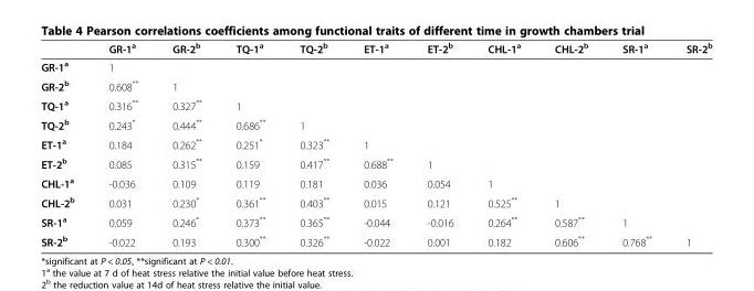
<table><thead><tr><td></td><td>GR-1<sup>a</sup></td><td>GR-2<sup>b</sup></td><td>TQ-1<sup>a</sup></td><td>TQ-2<sup>b</sup></td><td>ET-1<sup>a</sup></td><td>ET-2<sup>b</sup></td><td>CHL-1<sup>a</sup></td><td>CHL-2<sup>b</sup></td><td>SR-1<sup>a</sup></td><td>SR-2<sup>b</sup></td></tr></thead><tbody><tr><td>GR-1<sup>a</sup></td><td>1</td><td></td><td></td><td></td><td></td><td></td><td></td><td></td><td></td><td></td></tr><tr><td>GR-2<sup>b</sup></td><td>0.608**</td><td>1</td><td></td><td></td><td></td><td></td><td></td><td></td><td></td><td></td></tr><tr><td>TQ-1<sup>a</sup></td><td>0.316**</td><td>0.327**</td><td>1</td><td></td><td></td><td></td><td></td><td></td><td></td><td></td></tr><tr><td>TQ-2<sup>b</sup></td><td>0.243*</td><td>0.444**</td><td>0.686**</td><td>1</td><td></td><td></td><td></td><td></td><td></td><td></td></tr><tr><td>ET-1<sup>a</sup></td><td>0.184</td><td>0.262**</td><td>0.251*</td><td>0.323**</td><td>1</td><td></td><td></td><td></td><td></td><td></td></tr><tr><td>ET-2<sup>b</sup></td><td>0.085</td><td>0.315**</td><td>0.159</td><td>0.417**</td><td>0.688**</td><td>1</td><td></td><td></td><td></td><td></td></tr><tr><td>CHL-1<sup>a</sup></td><td>-0.036</td><td>0.109</td><td>0.119</td><td>0.181</td><td>0.036</td><td>0.054</td><td>1</td><td></td><td></td><td></td></tr><tr><td>CHL-2<sup>b</sup></td><td>0.031</td><td>0.230*</td><td>0.361**</td><td>0.403**</td><td>0.015</td><td>0.121</td><td>0.525**</td><td>1</td><td></td><td></td></tr><tr><td>SR-1<sup>a</sup></td><td>0.059</td><td>0.246*</td><td>0.373**</td><td>0.365**</td><td>-0.044</td><td>-0.016</td><td>0.264**</td><td>0.587**</td><td>1</td><td></td></tr><tr><td>SR-2<sup>b</sup></td><td>-0.022</td><td>0.193</td><td>0.300**</td><td>0.326**</td><td>-0.022</td><td>0.001</td><td>0.182</td><td>0.606**</td><td>0.768**</td><td>1</td></tr></tbody></table>